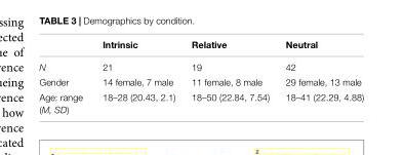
<table><thead><tr><td></td><td>Intrinsic</td><td>Relative</td><td>Neutral</td></tr></thead><tbody><tr><td>N</td><td>21</td><td>19</td><td>42</td></tr><tr><td>Gender</td><td>14 female, 7 male</td><td>11 female, 8 male</td><td>29 female, 13 male</td></tr><tr><td>Age: range (M, SD)</td><td>18–28 (20.43, 2.1)</td><td>18–50 (22.84, 7.54)</td><td>18–41 (22.29, 4.88)</td></tr></tbody></table>